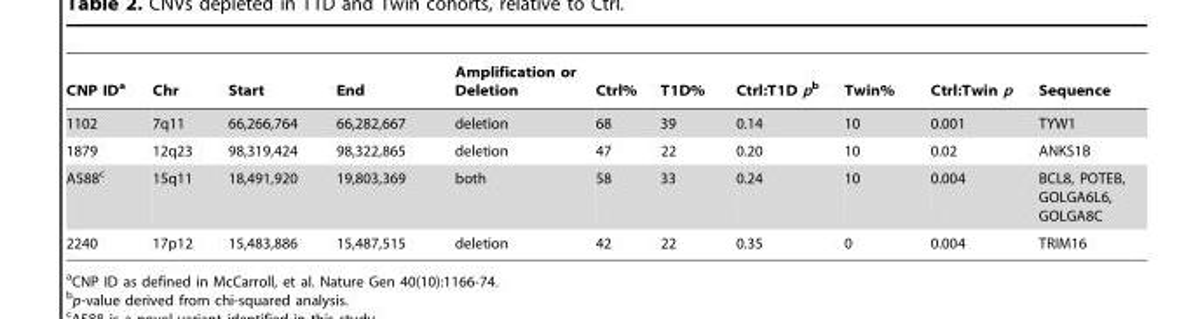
<table><thead><tr><td>CNP ID<sup>a</sup></td><td>Chr</td><td>Start</td><td>End</td><td>Amplification or Deletion</td><td>Ctrl%</td><td>T1D%</td><td>Ctrl:T1D pb</td><td>Twin%</td><td>Ctrl:Twin p</td><td>Sequence</td></tr></thead><tbody><tr><td>1102</td><td>7q11</td><td>66,266,764</td><td>66,282,667</td><td>deletion</td><td>68</td><td>39</td><td>0.14</td><td>10</td><td>0.001</td><td>TYW1</td></tr><tr><td>1879</td><td>12q23</td><td>98,319,424</td><td>98,322,865</td><td>deletion</td><td>47</td><td>22</td><td>0.20</td><td>10</td><td>0.02</td><td>ANKS1B</td></tr><tr><td>A588<sup>c</sup></td><td>15q11</td><td>18,491,920</td><td>19,803,369</td><td>both</td><td>58</td><td>33</td><td>0.24</td><td>10</td><td>0.004</td><td>BCL8, POTEB, GOLGA6L6, GOLGA8C</td></tr><tr><td>2240</td><td>17p12</td><td>15,483,886</td><td>15,487,515</td><td>deletion</td><td>42</td><td>22</td><td>0.35</td><td>0</td><td>0.004</td><td>TRIM16</td></tr></tbody></table>